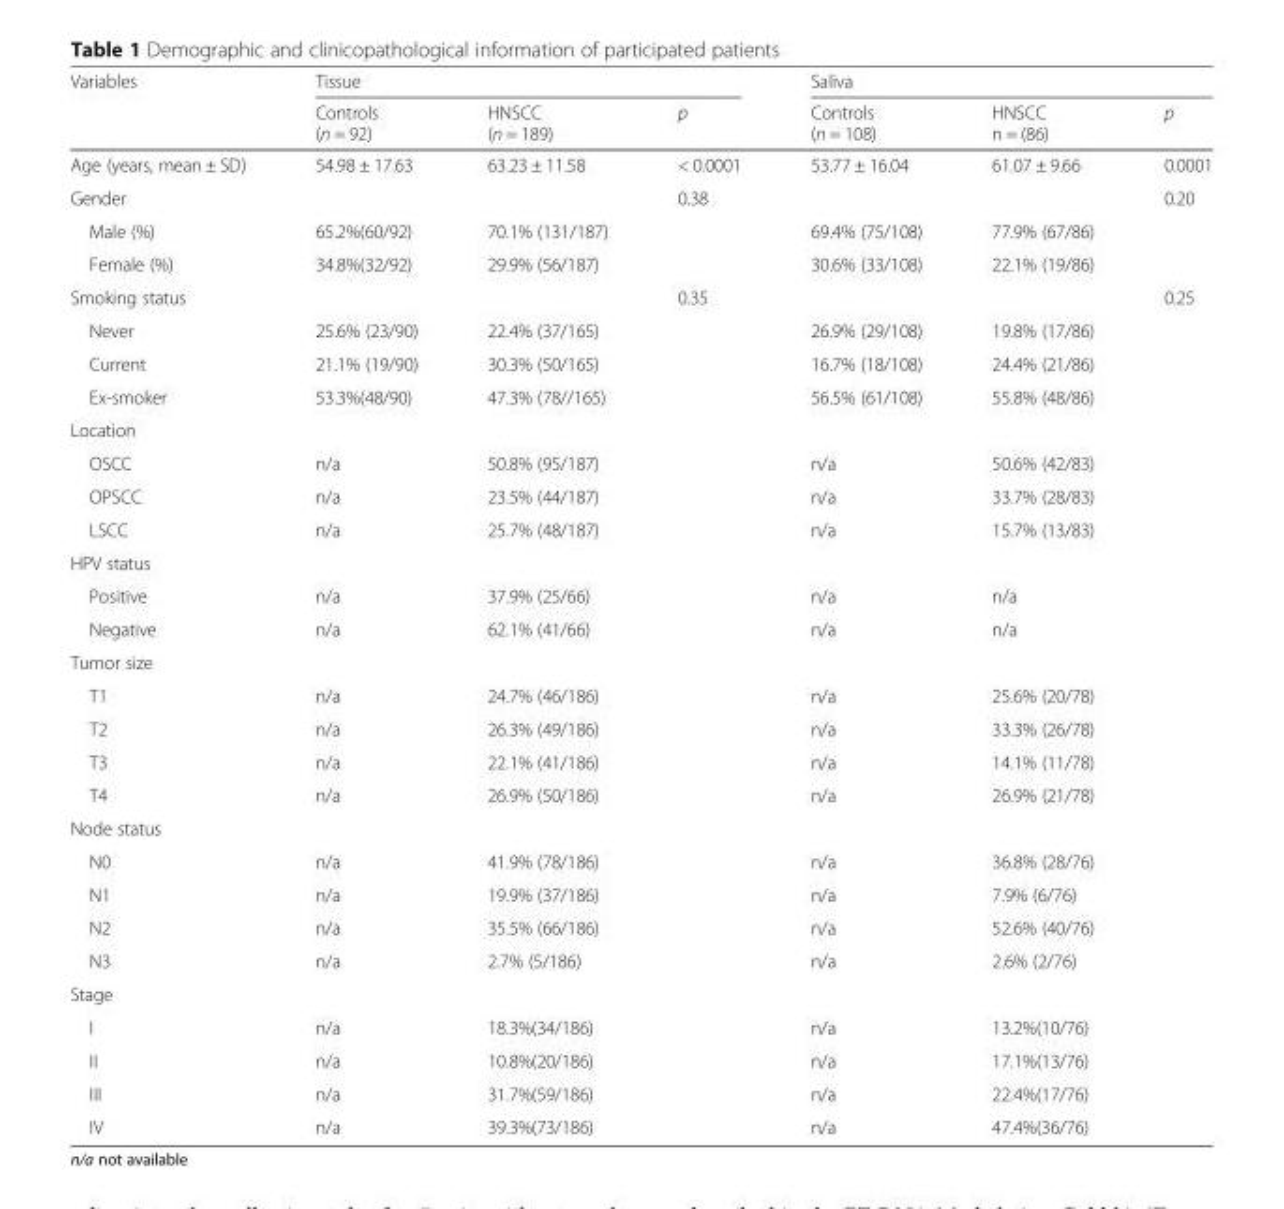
<table><thead><tr><td rowspan="2">Variables</td><td colspan="3">Tissue</td><td colspan="3">Saliva</td></tr><tr><td>Controls (n = 92)</td><td>HNSCC (n = 189)</td><td>p</td><td>Controls (n = 108)</td><td>HNSCC n = (86)</td><td>p</td></tr></thead><tbody><tr><td>Age (years, mean ± SD)</td><td>54.98 ± 17.63</td><td>63.23 ± 11.58</td><td>&lt; 0.0001</td><td>53.77 ± 16.04</td><td>61.07 ± 9.66</td><td>0.0001</td></tr><tr><td>Gender</td><td></td><td></td><td>0.38</td><td></td><td></td><td>0.20</td></tr><tr><td>Male (%)</td><td>65.2%(60/92)</td><td>70.1% (131/187)</td><td></td><td>69.4% (75/108)</td><td>77.9% (67/86)</td><td></td></tr><tr><td>Female (%)</td><td>34.8%(32/92)</td><td>29.9% (56/187)</td><td></td><td>30.6% (33/108)</td><td>22.1% (19/86)</td><td></td></tr><tr><td>Smoking status</td><td></td><td></td><td>0.35</td><td></td><td></td><td>0.25</td></tr><tr><td>Never</td><td>25.6% (23/90)</td><td>22.4% (37/165)</td><td></td><td>26.9% (29/108)</td><td>19.8% (17/86)</td><td></td></tr><tr><td>Current</td><td>21.1% (19/90)</td><td>30.3% (50/165)</td><td></td><td>16.7% (18/108)</td><td>24.4% (21/86)</td><td rowspan="2"></td></tr><tr><td>Ex-smoker</td><td>53.3%(48/90)</td><td>47.3% (78//165)</td><td></td><td>56.5% (61/108)</td><td>55.8% (48/86)</td></tr><tr><td colspan="7">Location</td></tr><tr><td>OSCC</td><td>n/a</td><td>50.8% (95/187)</td><td></td><td>n/a</td><td>50.6% (42/83)</td><td></td></tr><tr><td>OPSCC</td><td>n/a</td><td>23.5% (44/187)</td><td></td><td>n/a</td><td>33.7% (28/83)</td><td></td></tr><tr><td>LSCC</td><td>n/a</td><td>25.7% (48/187)</td><td></td><td>n/a</td><td>15.7% (13/83)</td><td></td></tr><tr><td colspan="7">HPV status</td></tr><tr><td>Positive</td><td>n/a</td><td>37.9% (25/66)</td><td></td><td>n/a</td><td>n/a</td><td></td></tr><tr><td>Negative</td><td>n/a</td><td>62.1% (41/66)</td><td></td><td>n/a</td><td>n/a</td><td></td></tr><tr><td colspan="7">Tumor size</td></tr><tr><td>T1</td><td>n/a</td><td>24.7% (46/186)</td><td></td><td>n/a</td><td>25.6% (20/78)</td><td></td></tr><tr><td>T2</td><td>n/a</td><td>26.3% (49/186)</td><td></td><td>n/a</td><td>33.3% (26/78)</td><td></td></tr><tr><td>T3</td><td>n/a</td><td>22.1% (41/186)</td><td></td><td>n/a</td><td>14.1% (11/78)</td><td></td></tr><tr><td>T4</td><td>n/a</td><td>26.9% (50/186)</td><td></td><td>n/a</td><td>26.9% (21/78)</td><td></td></tr><tr><td colspan="7">Node status</td></tr><tr><td>N0</td><td>n/a</td><td>41.9% (78/186)</td><td></td><td>n/a</td><td>36.8% (28/76)</td><td></td></tr><tr><td>N1</td><td>n/a</td><td>19.9% (37/186)</td><td></td><td>n/a</td><td>7.9% (6/76)</td><td></td></tr><tr><td>N2</td><td>n/a</td><td>35.5% (66/186)</td><td></td><td>n/a</td><td>52.6% (40/76)</td><td></td></tr><tr><td>N3</td><td>n/a</td><td>2.7% (5/186)</td><td></td><td>n/a</td><td>2.6% (2/76)</td><td></td></tr><tr><td colspan="7">Stage</td></tr><tr><td>I</td><td>n/a</td><td>18.3%(34/186)</td><td></td><td>n/a</td><td>13.2%(10/76)</td><td></td></tr><tr><td>II</td><td>n/a</td><td>10.8%(20/186)</td><td></td><td>n/a</td><td>17.1%(13/76)</td><td></td></tr><tr><td>III</td><td>n/a</td><td>31.7%(59/186)</td><td></td><td>n/a</td><td>22.4%(17/76)</td><td></td></tr><tr><td>IV</td><td>n/a</td><td>39.3%(73/186)</td><td></td><td>n/a</td><td>47.4%(36/76)</td><td></td></tr></tbody></table>